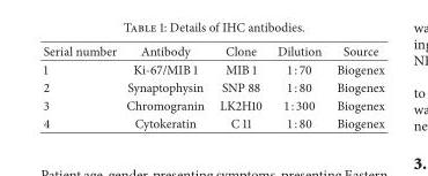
<table><thead><tr><td>Serial number</td><td>Antibody</td><td>Clone</td><td>Dilution</td><td>Source</td></tr></thead><tbody><tr><td>1</td><td>Ki-67/MIB 1</td><td>MIB 1</td><td>1 : 70</td><td>Biogenex</td></tr><tr><td>2</td><td>Synaptophysin</td><td>SNP 88</td><td>1 : 80</td><td>Biogenex</td></tr><tr><td>3</td><td>Chromogranin</td><td>LK2H10</td><td>1 : 300</td><td>Biogenex</td></tr><tr><td>4</td><td>Cytokeratin</td><td>C 11</td><td>1 : 80</td><td>Biogenex</td></tr></tbody></table>